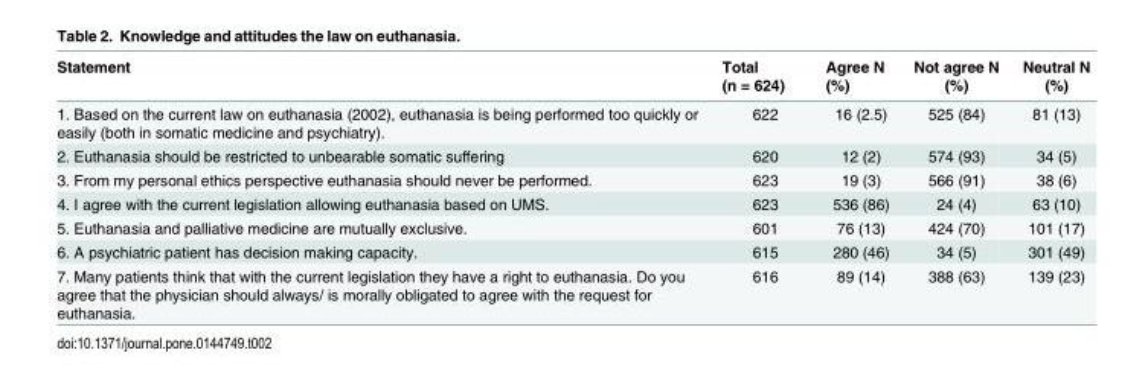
<table><thead><tr><td>Statement</td><td>Total (n = 624)</td><td>Agree N (%)</td><td>Not agree N (%)</td><td>Neutral N (%)</td></tr></thead><tbody><tr><td>1. Based on the current law on euthanasia (2002), euthanasia is being performed too quickly or easily (both in somatic medicine and psychiatry).</td><td>622</td><td>16 (2.5)</td><td>525 (84)</td><td>81 (13)</td></tr><tr><td>2. Euthanasia should be restricted to unbearable somatic suffering</td><td>620</td><td>12 (2)</td><td>574 (93)</td><td>34 (5)</td></tr><tr><td>3. From my personal ethics perspective euthanasia should never be performed.</td><td>623</td><td>19 (3)</td><td>566 (91)</td><td>38 (6)</td></tr><tr><td>4. I agree with the current legislation allowing euthanasia based on UMS.</td><td>623</td><td>536 (86)</td><td>24 (4)</td><td>63 (10)</td></tr><tr><td>5. Euthanasia and palliative medicine are mutually exclusive.</td><td>601</td><td>76 (13)</td><td>424 (70)</td><td>101 (17)</td></tr><tr><td>6. A psychiatric patient has decision making capacity.</td><td>615</td><td>280 (46)</td><td>34 (5)</td><td>301 (49)</td></tr><tr><td>7. Many patients think that with the current legislation they have a right to euthanasia. Do you agree that the physician should always/ is morally obligated to agree with the request for euthanasia.</td><td>616</td><td>89 (14)</td><td>388 (63)</td><td>139 (23)</td></tr></tbody></table>